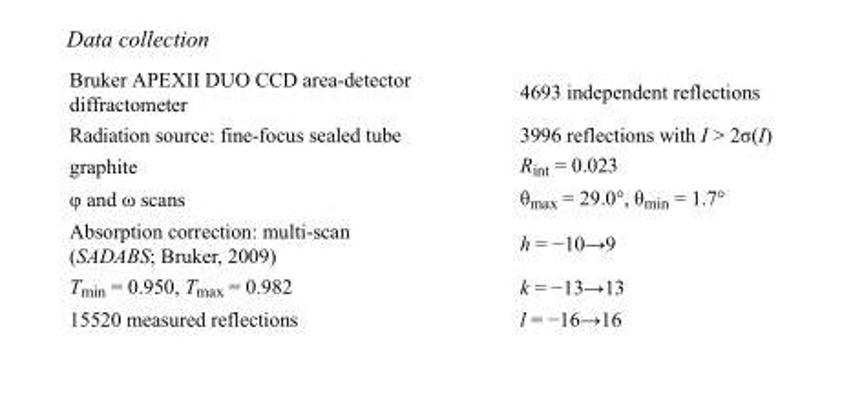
<table><tbody><tr><td>Bruker APEXII DUO CCD area-detector diffractometer</td><td>4693 independent reflections</td></tr><tr><td>Radiation source: fine-focus sealed tube</td><td>3996 reflections with I &gt; 2σ(I)</td></tr><tr><td>graphite</td><td>R<sub>int</sub> = 0.023</td></tr><tr><td>φ and ω scans</td><td>θ<sub>max</sub> = 29.0°, θ<sub>min</sub> = 1.7°</td></tr><tr><td>Absorption correction: multi-scan (SADABS; Bruker, 2009)</td><td>h = −10→9</td></tr><tr><td>T<sub>min</sub> = 0.950, T<sub>max</sub> = 0.982</td><td>k = −13→13</td></tr><tr><td>15520 measured reflections</td><td>l = −16→16</td></tr></tbody></table>